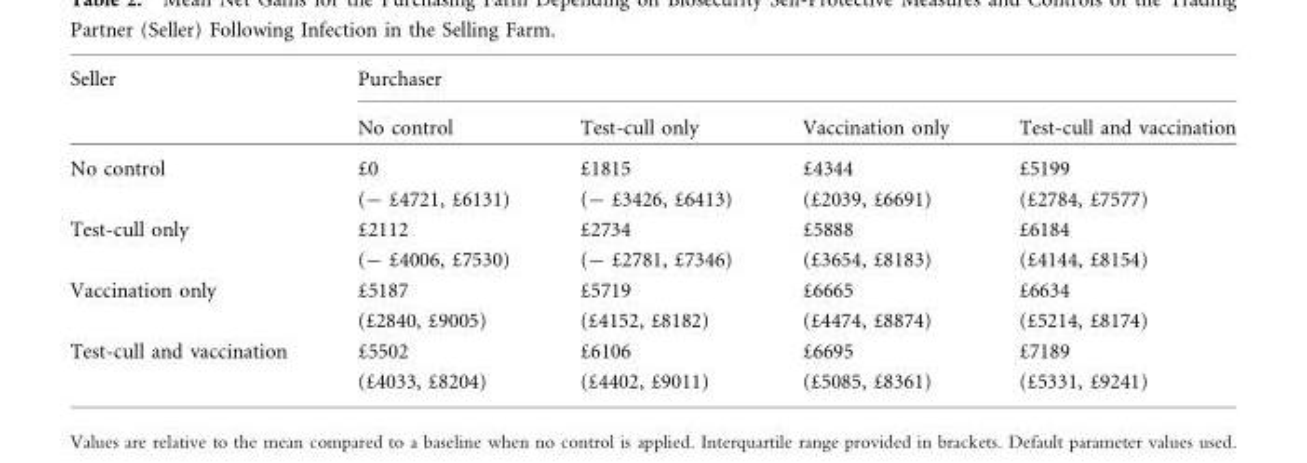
<table><thead><tr><td rowspan="2">Seller</td><td colspan="4">Purchaser</td></tr><tr><td>No control</td><td>Test-cull only</td><td>Vaccination only</td><td>Test-cull and vaccination</td></tr></thead><tbody><tr><td rowspan="2">No control</td><td>£0</td><td>£1815</td><td>£4344</td><td>£5199</td></tr><tr><td>(- £4721, £6131)</td><td>(- £3426, £6413)</td><td>(£2039, £6691)</td><td>(£2784, £7577)</td></tr><tr><td rowspan="2">Test-cull only</td><td>£2112</td><td>£2734</td><td>£5888</td><td>£6184</td></tr><tr><td>(- £4006, £7530)</td><td>(- £2781, £7346)</td><td>(£3654, £8183)</td><td>(£4144, £8154)</td></tr><tr><td rowspan="2">Vaccination only</td><td>£5187</td><td>£5719</td><td>£6665</td><td>£6634</td></tr><tr><td>(£2840, £9005)</td><td>(£4152, £8182)</td><td>(£4474, £8874)</td><td>(£5214, £8174)</td></tr><tr><td rowspan="2">Test-cull and vaccination</td><td>£5502</td><td>£6106</td><td>£6695</td><td>£7189</td></tr><tr><td>(£4033, £8204)</td><td>(£4402, £9011)</td><td>(£5085, £8361)</td><td>(£5331, £9241)</td></tr></tbody></table>